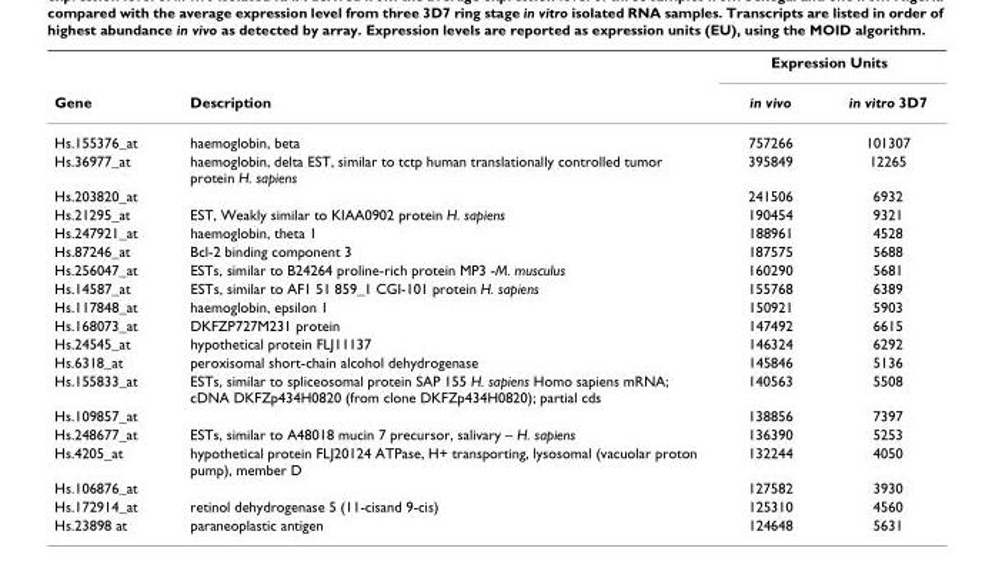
<table><thead><tr><td rowspan="2">Gene</td><td rowspan="2">Description</td><td colspan="2">Expression Units</td></tr><tr><td>in vivo</td><td>in vitro 3D7</td></tr></thead><tbody><tr><td>Hs.155376_at</td><td>haemoglobin, beta</td><td>757266</td><td>101307</td></tr><tr><td>Hs.36977_at</td><td>haemoglobin, delta EST, similar to tctp human translationally controlled tumor protein H. sapiens</td><td>395849</td><td>12265</td></tr><tr><td>Hs.203820_at</td><td></td><td>241506</td><td>6932</td></tr><tr><td>Hs.21295_at</td><td>EST, Weakly similar to KIAA0902 protein H. sapiens</td><td>190454</td><td>9321</td></tr><tr><td>Hs.247921_at</td><td>haemoglobin, theta 1</td><td>188961</td><td>4528</td></tr><tr><td>Hs.87246_at</td><td>Bcl-2 binding component 3</td><td>187575</td><td>5688</td></tr><tr><td>Hs.256047_at</td><td>ESTs, similar to B24264 proline-rich protein MP3 -M. musculus</td><td>160290</td><td>5681</td></tr><tr><td>Hs.14587_at</td><td>ESTs, similar to AF1 51 859_1 CGI-101 protein H. sapiens</td><td>155768</td><td>6389</td></tr><tr><td>Hs.117848_at</td><td>haemoglobin, epsilon 1</td><td>150921</td><td>5903</td></tr><tr><td>Hs.168073_at</td><td>DKFZP727M231 protein</td><td>147492</td><td>6615</td></tr><tr><td>Hs.24545_at</td><td>hypothetical protein FLJ11137</td><td>146324</td><td>6292</td></tr><tr><td>Hs.6318_at</td><td>peroxisomal short-chain alcohol dehydrogenase</td><td>145846</td><td>5136</td></tr><tr><td>Hs.155833_at</td><td>ESTs, similar to spliceosomal protein SAP 155 H. sapiens Homo sapiens mRNA; cDNA DKFZp434H0820 (from clone DKFZp434H0820); partial cds</td><td>140563</td><td>5508</td></tr><tr><td>Hs.109857_at</td><td></td><td>138856</td><td>7397</td></tr><tr><td>Hs.248677_at</td><td>ESTs, similar to A48018 mucin 7 precursor, salivary – H. sapiens</td><td>136390</td><td>5253</td></tr><tr><td>Hs.4205_at</td><td>hypothetical protein FLJ20124 ATPase, H+ transporting, lysosomal (vacuolar proton pump), member D</td><td>132244</td><td>4050</td></tr><tr><td>Hs.106876_at</td><td></td><td>127582</td><td>3930</td></tr><tr><td>Hs.172914_at</td><td>retinol dehydrogenase 5 (11-cisand 9-cis)</td><td>125310</td><td>4560</td></tr><tr><td>Hs.23898 at</td><td>paraneoplastic antigen</td><td>124648</td><td>5631</td></tr></tbody></table>